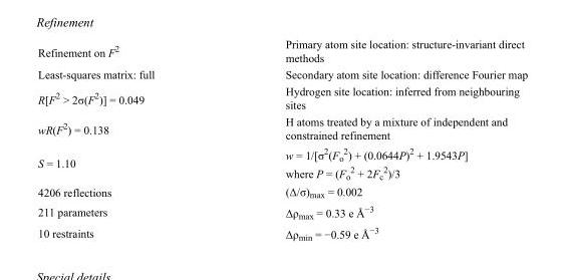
<table><tbody><tr><td>Refinement on F<sup>2</sup></td><td>Primary atom site location: structure-invariant direct methods</td></tr><tr><td>Least-squares matrix: full</td><td>Secondary atom site location: difference Fourier map</td></tr><tr><td>R[F<sup>2</sup> &gt; 2σ(F<sup>2</sup>)] = 0.049</td><td>Hydrogen site location: inferred from neighbouring sites</td></tr><tr><td>wR(F<sup>2</sup>) = 0.138</td><td>H atoms treated by a mixture of independent and constrained refinement</td></tr><tr><td>S = 1.10</td><td>w = 1/[σ<sup>2</sup>(F<sub>o</sub> <sup>2</sup>) + (0.0644P)<sup>2</sup> + 1.9543P] where P = (F<sub>o</sub> <sup>2</sup> + 2F<sub>c</sub> <sup>2</sup>)/3</td></tr><tr><td>4206 reflections</td><td>(Δ/σ)<sub>max</sub> = 0.002</td></tr><tr><td>211 parameters</td><td>Δρ<sub>max</sub> = 0.33 e Å<sup>−3</sup></td></tr><tr><td>10 restraints</td><td>Δρ<sub>min</sub> = −0.59 e Å<sup>−3</sup></td></tr></tbody></table>